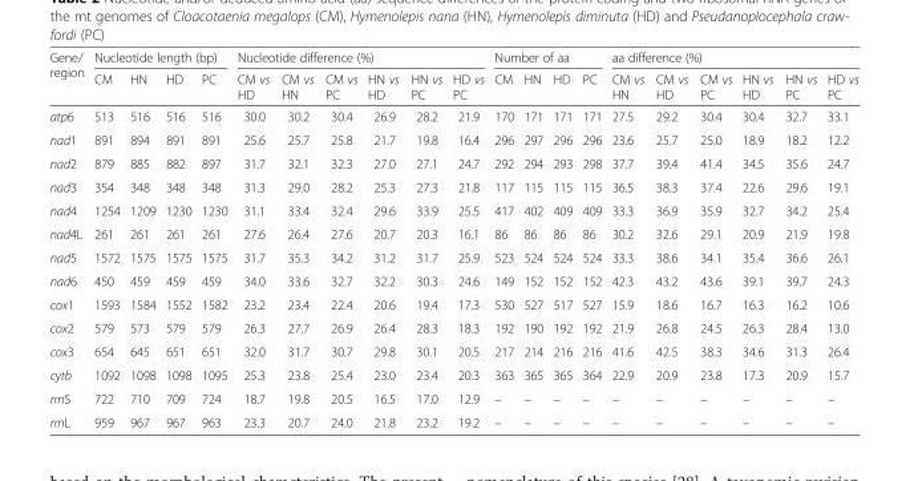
<table><thead><tr><td rowspan="2">Gene/ region</td><td colspan="4">Nucleotide length (bp)</td><td colspan="6">Nucleotide difference (%)</td><td colspan="4">Number of aa</td><td colspan="6">aa difference (%)</td></tr><tr><td>CM</td><td>HN</td><td>HD</td><td>PC</td><td>CM vs HD</td><td>CM vs HN</td><td>CM vs PC</td><td>HN vs HD</td><td>HN vs PC</td><td>HD vs PC</td><td>CM</td><td>HN</td><td>HD</td><td>PC</td><td>CM vs HN</td><td>CM vs HD</td><td>CM vs PC</td><td>HN vs HD</td><td>HN vs PC</td><td>HD vs PC</td></tr></thead><tbody><tr><td>atp6</td><td>513</td><td>516</td><td>516</td><td>516</td><td>30.0</td><td>30.2</td><td>30.4</td><td>26.9</td><td>28.2</td><td>21.9</td><td>170</td><td>171</td><td>171</td><td>171</td><td>27.5</td><td>29.2</td><td>30.4</td><td>30.4</td><td>32.7</td><td>33.1</td></tr><tr><td>nad1</td><td>891</td><td>894</td><td>891</td><td>891</td><td>25.6</td><td>25.7</td><td>25.8</td><td>21.7</td><td>19.8</td><td>16.4</td><td>296</td><td>297</td><td>296</td><td>296</td><td>23.6</td><td>25.7</td><td>25.0</td><td>18.9</td><td>18.2</td><td>12.2</td></tr><tr><td>nad2</td><td>879</td><td>885</td><td>882</td><td>897</td><td>31.7</td><td>32.1</td><td>32.3</td><td>27.0</td><td>27.1</td><td>24.7</td><td>292</td><td>294</td><td>293</td><td>298</td><td>37.7</td><td>39.4</td><td>41.4</td><td>34.5</td><td>35.6</td><td>24.7</td></tr><tr><td>nad3</td><td>354</td><td>348</td><td>348</td><td>348</td><td>31.3</td><td>29.0</td><td>28.2</td><td>25.3</td><td>27.3</td><td>21.8</td><td>117</td><td>115</td><td>115</td><td>115</td><td>36.5</td><td>38.3</td><td>37.4</td><td>22.6</td><td>29.6</td><td>19.1</td></tr><tr><td>nad4</td><td>1254</td><td>1209</td><td>1230</td><td>1230</td><td>31.1</td><td>33.4</td><td>32.4</td><td>29.6</td><td>33.9</td><td>25.5</td><td>417</td><td>402</td><td>409</td><td>409</td><td>33.3</td><td>36.9</td><td>35.9</td><td>32.7</td><td>34.2</td><td>25.4</td></tr><tr><td>nad4L</td><td>261</td><td>261</td><td>261</td><td>261</td><td>27.6</td><td>26.4</td><td>27.6</td><td>20.7</td><td>20.3</td><td>16.1</td><td>86</td><td>86</td><td>86</td><td>86</td><td>30.2</td><td>32.6</td><td>29.1</td><td>20.9</td><td>21.9</td><td>19.8</td></tr><tr><td>nad5</td><td>1572</td><td>1575</td><td>1575</td><td>1575</td><td>31.7</td><td>35.3</td><td>34.2</td><td>31.2</td><td>31.7</td><td>25.9</td><td>523</td><td>524</td><td>524</td><td>524</td><td>33.3</td><td>38.6</td><td>34.1</td><td>35.4</td><td>36.6</td><td>26.1</td></tr><tr><td>nad6</td><td>450</td><td>459</td><td>459</td><td>459</td><td>34.0</td><td>33.6</td><td>32.7</td><td>32.2</td><td>30.3</td><td>24.6</td><td>149</td><td>152</td><td>152</td><td>152</td><td>42.3</td><td>43.2</td><td>43.6</td><td>39.1</td><td>39.7</td><td>24.3</td></tr><tr><td>cox1</td><td>1593</td><td>1584</td><td>1552</td><td>1582</td><td>23.2</td><td>23.4</td><td>22.4</td><td>20.6</td><td>19.4</td><td>17.3</td><td>530</td><td>527</td><td>517</td><td>527</td><td>15.9</td><td>18.6</td><td>16.7</td><td>16.3</td><td>16.2</td><td>10.6</td></tr><tr><td>cox2</td><td>579</td><td>573</td><td>579</td><td>579</td><td>26.3</td><td>27.7</td><td>26.9</td><td>26.4</td><td>28.3</td><td>18.3</td><td>192</td><td>190</td><td>192</td><td>192</td><td>21.9</td><td>26.8</td><td>24.5</td><td>26.3</td><td>28.4</td><td>13.0</td></tr><tr><td>cox3</td><td>654</td><td>645</td><td>651</td><td>651</td><td>32.0</td><td>31.7</td><td>30.7</td><td>29.8</td><td>30.1</td><td>20.5</td><td>217</td><td>214</td><td>216</td><td>216</td><td>41.6</td><td>42.5</td><td>38.3</td><td>34.6</td><td>31.3</td><td>26.4</td></tr><tr><td>cytb</td><td>1092</td><td>1098</td><td>1098</td><td>1095</td><td>25.3</td><td>23.8</td><td>25.4</td><td>23.0</td><td>23.4</td><td>20.3</td><td>363</td><td>365</td><td>365</td><td>364</td><td>22.9</td><td>20.9</td><td>23.8</td><td>17.3</td><td>20.9</td><td>15.7</td></tr><tr><td>rrnS</td><td>722</td><td>710</td><td>709</td><td>724</td><td>18.7</td><td>19.8</td><td>20.5</td><td>16.5</td><td>17.0</td><td>12.9</td><td>–</td><td>–</td><td>–</td><td>–</td><td>–</td><td>–</td><td>–</td><td>–</td><td>–</td><td>–</td></tr><tr><td>rrnL</td><td>959</td><td>967</td><td>967</td><td>963</td><td>23.3</td><td>20.7</td><td>24.0</td><td>21.8</td><td>23.2</td><td>19.2</td><td>–</td><td>–</td><td>–</td><td>–</td><td>–</td><td>–</td><td>–</td><td>–</td><td>–</td><td>–</td></tr></tbody></table>